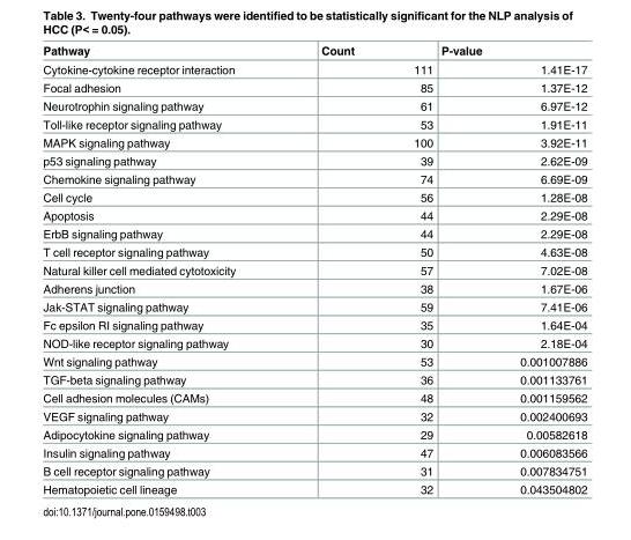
<table><thead><tr><td>Pathway</td><td>Count</td><td>P-value</td></tr></thead><tbody><tr><td>Cytokine-cytokine receptor interaction</td><td>111</td><td>1.41E-17</td></tr><tr><td>Focal adhesion</td><td>85</td><td>1.37E-12</td></tr><tr><td>Neurotrophin signaling pathway</td><td>61</td><td>6.97E-12</td></tr><tr><td>Toll-like receptor signaling pathway</td><td>53</td><td>1.91E-11</td></tr><tr><td>MAPK signaling pathway</td><td>100</td><td>3.92E-11</td></tr><tr><td>p53 signaling pathway</td><td>39</td><td>2.62E-09</td></tr><tr><td>Chemokine signaling pathway</td><td>74</td><td>6.69E-09</td></tr><tr><td>Cell cycle</td><td>56</td><td>1.28E-08</td></tr><tr><td>Apoptosis</td><td>44</td><td>2.29E-08</td></tr><tr><td>ErbB signaling pathway</td><td>44</td><td>2.29E-08</td></tr><tr><td>T cell receptor signaling pathway</td><td>50</td><td>4.63E-08</td></tr><tr><td>Natural killer cell mediated cytotoxicity</td><td>57</td><td>7.02E-08</td></tr><tr><td>Adherens junction</td><td>38</td><td>1.67E-06</td></tr><tr><td>Jak-STAT signaling pathway</td><td>59</td><td>7.41E-06</td></tr><tr><td>Fc epsilon RI signaling pathway</td><td>35</td><td>1.64E-04</td></tr><tr><td>NOD-like receptor signaling pathway</td><td>30</td><td>2.18E-04</td></tr><tr><td>Wnt signaling pathway</td><td>53</td><td>0.001007886</td></tr><tr><td>TGF-beta signaling pathway</td><td>36</td><td>0.001133761</td></tr><tr><td>Cell adhesion molecules (CAMs)</td><td>48</td><td>0.001159562</td></tr><tr><td>VEGF signaling pathway</td><td>32</td><td>0.002400693</td></tr><tr><td>Adipocytokine signaling pathway</td><td>29</td><td>0.00582618</td></tr><tr><td>Insulin signaling pathway</td><td>47</td><td>0.006083566</td></tr><tr><td>B cell receptor signaling pathway</td><td>31</td><td>0.007834751</td></tr><tr><td>Hematopoietic cell lineage</td><td>32</td><td>0.043504802</td></tr></tbody></table>